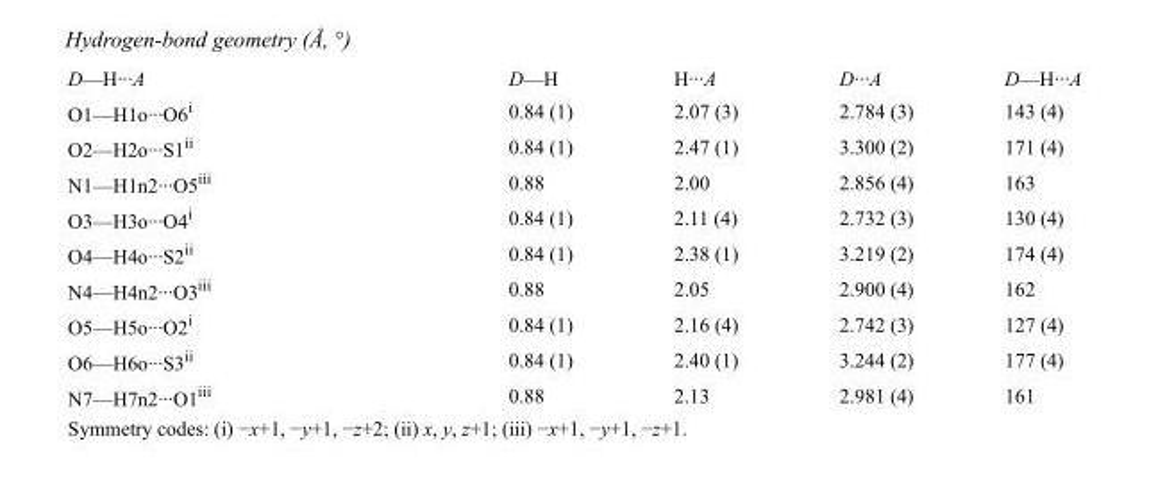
<table><tbody><tr><td>D—H···A</td><td>D—H</td><td>H···A</td><td>D···A</td><td>D—H···A</td></tr><tr><td>O1—H1o···O6<sup>i</sup></td><td>0.84 (1)</td><td>2.07 (3)</td><td>2.784 (3)</td><td>143 (4)</td></tr><tr><td>O2—H2o···S1<sup>ii</sup></td><td>0.84 (1)</td><td>2.47 (1)</td><td>3.300 (2)</td><td>171 (4)</td></tr><tr><td>N1—H1n2···O5<sup>iii</sup></td><td>0.88</td><td>2.00</td><td>2.856 (4)</td><td>163</td></tr><tr><td>O3—H3o···O4<sup>i</sup></td><td>0.84 (1)</td><td>2.11 (4)</td><td>2.732 (3)</td><td>130 (4)</td></tr><tr><td>O4—H4o···S2<sup>ii</sup></td><td>0.84 (1)</td><td>2.38 (1)</td><td>3.219 (2)</td><td>174 (4)</td></tr><tr><td>N4—H4n2···O3<sup>iii</sup></td><td>0.88</td><td>2.05</td><td>2.900 (4)</td><td>162</td></tr><tr><td>O5—H5o···O2<sup>i</sup></td><td>0.84 (1)</td><td>2.16 (4)</td><td>2.742 (3)</td><td>127 (4)</td></tr><tr><td>O6—H6o···S3<sup>ii</sup></td><td>0.84 (1)</td><td>2.40 (1)</td><td>3.244 (2)</td><td>177 (4)</td></tr><tr><td>N7—H7n2···O1<sup>iii</sup></td><td>0.88</td><td>2.13</td><td>2.981 (4)</td><td>161</td></tr></tbody></table>